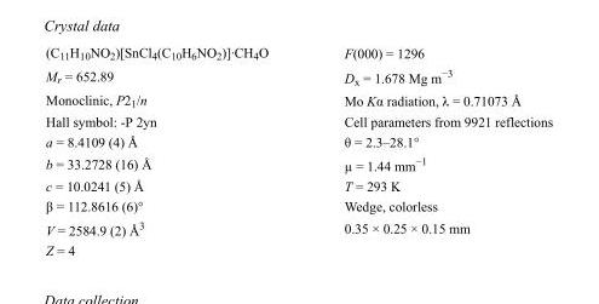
<table><tbody><tr><td>(C<sub>11</sub>H<sub>10</sub>NO<sub>2</sub>)[SnCl<sub>4</sub>(C<sub>10</sub>H<sub>6</sub>NO<sub>2</sub>)]·CH<sub>4</sub>O</td><td>F(000) = 1296</td></tr><tr><td>M<sub>r</sub> = 652.89</td><td>D<sub>x</sub> = 1.678 Mg m<sup>−3</sup></td></tr><tr><td>Monoclinic, P2<sub>1</sub>/n</td><td>Mo Kα radiation, λ = 0.71073 Å</td></tr><tr><td>Hall symbol: -P 2yn</td><td>Cell parameters from 9921 reflections</td></tr><tr><td>a = 8.4109 (4) Å</td><td>θ = 2.3–28.1°</td></tr><tr><td>b = 33.2728 (16) Å</td><td>µ = 1.44 mm<sup>−1</sup></td></tr><tr><td>c = 10.0241 (5) Å</td><td>T = 293 K</td></tr><tr><td>β = 112.8616 (6)°</td><td>Wedge, colorless</td></tr><tr><td>V = 2584.9 (2) Å<sup>3</sup></td><td>0.35 × 0.25 × 0.15 mm</td></tr><tr><td>Z = 4</td><td></td></tr></tbody></table>